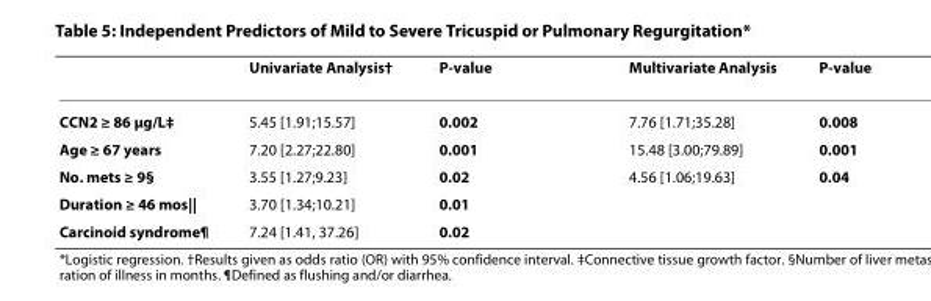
<table><thead><tr><td></td><td>Univariate Analysis†</td><td>P-value</td><td>Multivariate Analysis</td><td>P-value</td></tr></thead><tbody><tr><td>CCN2 ≥ 86 μg/L‡</td><td>5.45 [1.91;15.57]</td><td>0.002</td><td>7.76 [1.71;35.28]</td><td>0.008</td></tr><tr><td>Age ≥ 67 years</td><td>7.20 [2.27;22.80]</td><td>0.001</td><td>15.48 [3.00;79.89]</td><td>0.001</td></tr><tr><td>No. mets ≥ 9§</td><td>3.55 [1.27;9.23]</td><td>0.02</td><td>4.56 [1.06;19.63]</td><td>0.04</td></tr><tr><td>Duration ≥ 46 mos||</td><td>3.70 [1.34;10.21]</td><td>0.01</td><td></td><td></td></tr><tr><td>Carcinoid syndrome¶</td><td>7.24 [1.41, 37.26]</td><td>0.02</td><td></td><td></td></tr></tbody></table>